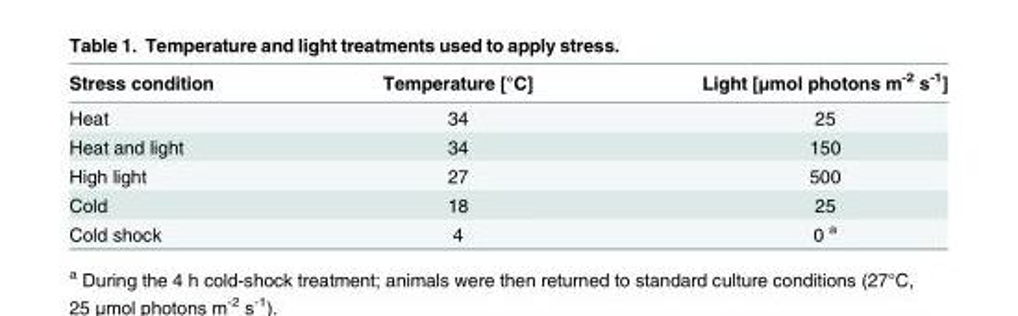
<table><thead><tr><td>Stress condition</td><td>Temperature [°C]</td><td>Light [μmol photons m<sup>-2</sup> s<sup>-1</sup>]</td></tr></thead><tbody><tr><td>Heat</td><td>34</td><td>25</td></tr><tr><td>Heat and light</td><td>34</td><td>150</td></tr><tr><td>High light</td><td>27</td><td>500</td></tr><tr><td>Cold</td><td>18</td><td>25</td></tr><tr><td>Cold shock</td><td>4</td><td>0 <sup>a</sup></td></tr></tbody></table>